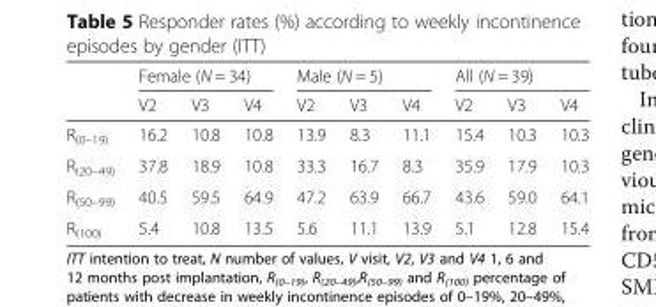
<table><thead><tr><td rowspan="2"></td><td colspan="3">Female (N = 34)</td><td colspan="3">Male (N = 5)</td><td colspan="3">All (N = 39)</td></tr><tr><td>V2</td><td>V3</td><td>V4</td><td>V2</td><td>V3</td><td>V4</td><td>V2</td><td>V3</td><td>V4</td></tr></thead><tbody><tr><td>R<sub>(0–19)</sub></td><td>16.2</td><td>10.8</td><td>10.8</td><td>13.9</td><td>8.3</td><td>11.1</td><td>15.4</td><td>10.3</td><td>10.3</td></tr><tr><td>R<sub>(20–49)</sub></td><td>37.8</td><td>18.9</td><td>10.8</td><td>33.3</td><td>16.7</td><td>8.3</td><td>35.9</td><td>17.9</td><td>10.3</td></tr><tr><td>R<sub>(50–99)</sub></td><td>40.5</td><td>59.5</td><td>64.9</td><td>47.2</td><td>63.9</td><td>66.7</td><td>43.6</td><td>59.0</td><td>64.1</td></tr><tr><td>R<sub>(100)</sub></td><td>5.4</td><td>10.8</td><td>13.5</td><td>5.6</td><td>11.1</td><td>13.9</td><td>5.1</td><td>12.8</td><td>15.4</td></tr></tbody></table>